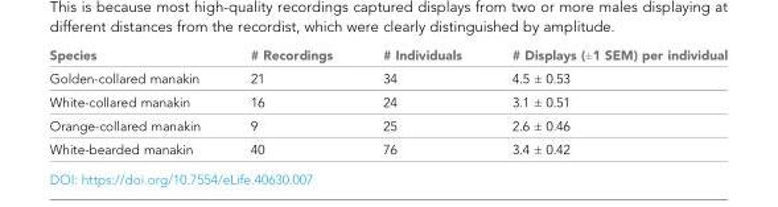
<table><thead><tr><td>Species</td><td># Recordings</td><td># Individuals</td><td># Displays (±1 SEM) per individual</td></tr></thead><tbody><tr><td>Golden-collared manakin</td><td>21</td><td>34</td><td>4.5 ± 0.53</td></tr><tr><td>White-collared manakin</td><td>16</td><td>24</td><td>3.1 ± 0.51</td></tr><tr><td>Orange-collared manakin</td><td>9</td><td>25</td><td>2.6 ± 0.46</td></tr><tr><td>White-bearded manakin</td><td>40</td><td>76</td><td>3.4 ± 0.42</td></tr></tbody></table>